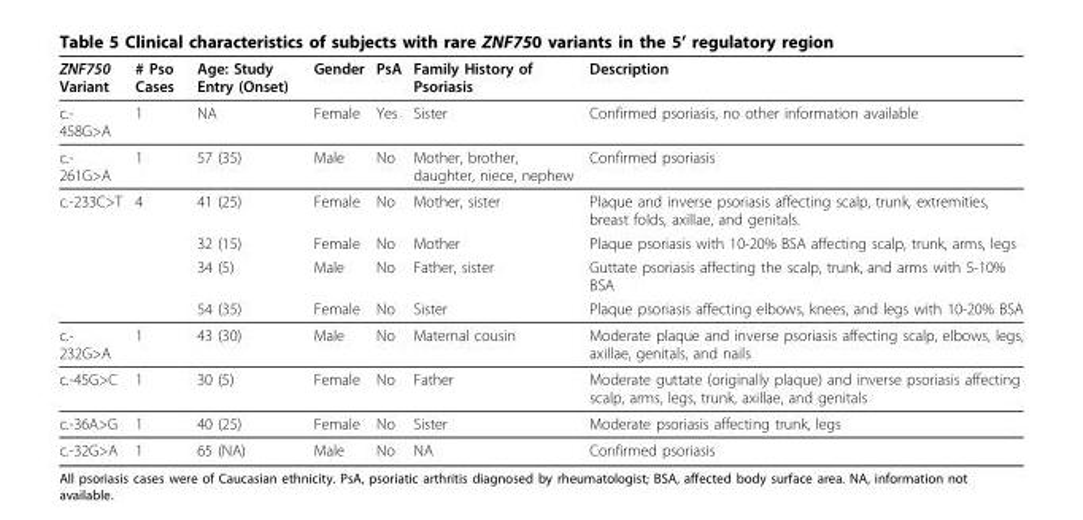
<table><thead><tr><td>ZNF750 Variant</td><td># Pso Cases</td><td>Age: Study Entry (Onset)</td><td>Gender</td><td>PsA</td><td>Family History of Psoriasis</td><td>Description</td></tr></thead><tbody><tr><td>c.- 458G&gt;A</td><td>1</td><td>NA</td><td>Female</td><td>Yes</td><td>Sister</td><td>Confirmed psoriasis, no other information available</td></tr><tr><td>c.- 261G&gt;A</td><td>1</td><td>57 (35)</td><td>Male</td><td>No</td><td>Mother, brother, daughter, niece, nephew</td><td>Confirmed psoriasis</td></tr><tr><td rowspan="4">c.-233C&gt;T</td><td>4</td><td>41 (25)</td><td>Female</td><td>No</td><td>Mother, sister</td><td>Plaque and inverse psoriasis affecting scalp, trunk, extremities, breast folds, axillae, and genitals.</td></tr><tr><td></td><td>32 (15)</td><td>Female</td><td>No</td><td>Mother</td><td>Plaque psoriasis with 10-20% BSA affecting scalp, trunk, arms, legs</td></tr><tr><td></td><td>34 (5)</td><td>Male</td><td>No</td><td>Father, sister</td><td>Guttate psoriasis affecting the scalp, trunk, and arms with 5-10% BSA</td></tr><tr><td></td><td>54 (35)</td><td>Female</td><td>No</td><td>Sister</td><td>Plaque psoriasis affecting elbows, knees, and legs with 10-20% BSA</td></tr><tr><td>c.- 232G&gt;A</td><td>1</td><td>43 (30)</td><td>Male</td><td>No</td><td>Maternal cousin</td><td>Moderate plaque and inverse psoriasis affecting scalp, elbows, legs, axillae, genitals, and nails</td></tr><tr><td>c.-45G&gt;C</td><td>1</td><td>30 (5)</td><td>Female</td><td>No</td><td>Father</td><td>Moderate guttate (originally plaque) and inverse psoriasis affecting scalp, arms, legs, trunk, axillae, and genitals</td></tr><tr><td>c.-36A&gt;G</td><td>1</td><td>40 (25)</td><td>Female</td><td>No</td><td>Sister</td><td>Moderate psoriasis affecting trunk, legs</td></tr><tr><td>c.-32G&gt;A</td><td>1</td><td>65 (NA)</td><td>Male</td><td>No</td><td>NA</td><td>Confirmed psoriasis</td></tr></tbody></table>